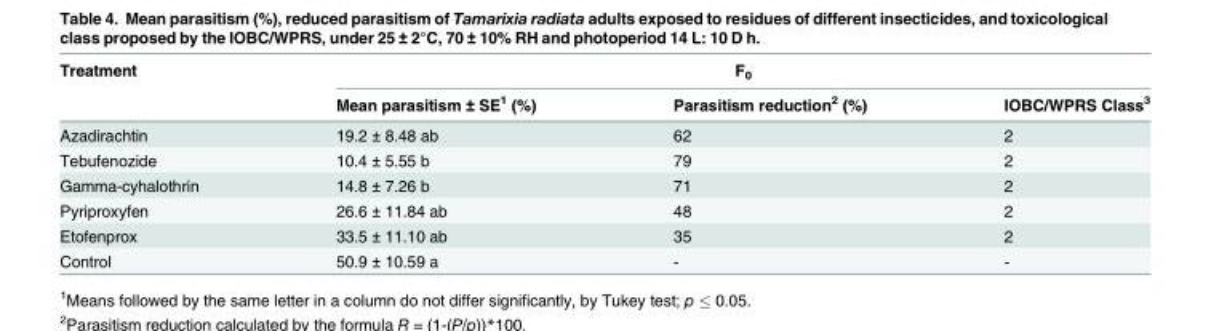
<table><thead><tr><td rowspan="2">Treatment</td><td colspan="3">F<sub>0</sub></td></tr><tr><td>Mean parasitism ± SE<sup>1</sup> (%)</td><td>Parasitism reduction<sup>2</sup> (%)</td><td>IOBC/WPRS Class<sup>3</sup></td></tr></thead><tbody><tr><td>Azadirachtin</td><td>19.2 ± 8.48 ab</td><td>62</td><td>2</td></tr><tr><td>Tebufenozide</td><td>10.4 ± 5.55 b</td><td>79</td><td>2</td></tr><tr><td>Gamma-cyhalothrin</td><td>14.8 ± 7.26 b</td><td>71</td><td>2</td></tr><tr><td>Pyriproxyfen</td><td>26.6 ± 11.84 ab</td><td>48</td><td>2</td></tr><tr><td>Etofenprox</td><td>33.5 ± 11.10 ab</td><td>35</td><td>2</td></tr><tr><td>Control</td><td>50.9 ± 10.59 a</td><td>-</td><td>-</td></tr></tbody></table>